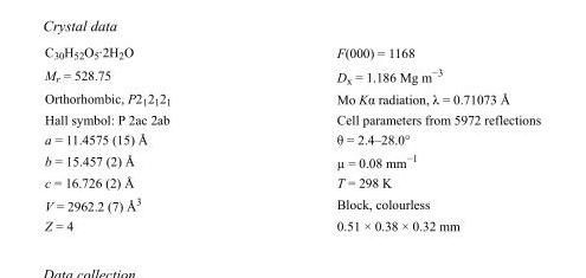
<table><tbody><tr><td>C<sub>30</sub>H<sub>52</sub>O<sub>5</sub>·2H<sub>2</sub>O</td><td>F(000) = 1168</td></tr><tr><td>M<sub>r</sub> = 528.75</td><td>D<sub>x</sub> = 1.186 Mg m<sup>−3</sup></td></tr><tr><td>Orthorhombic, P2<sub>1</sub>2<sub>1</sub>2<sub>1</sub></td><td>Mo Kα radiation, λ = 0.71073 Å</td></tr><tr><td>Hall symbol: P 2ac 2ab</td><td>Cell parameters from 5972 reflections</td></tr><tr><td>a = 11.4575 (15) Å</td><td>θ = 2.4–28.0°</td></tr><tr><td>b = 15.457 (2) Å</td><td>µ = 0.08 mm<sup>−1</sup></td></tr><tr><td>c = 16.726 (2) Å</td><td>T = 298 K</td></tr><tr><td>V = 2962.2 (7) Å<sup>3</sup></td><td>Block, colourless</td></tr><tr><td>Z = 4</td><td>0.51 × 0.38 × 0.32 mm</td></tr></tbody></table>